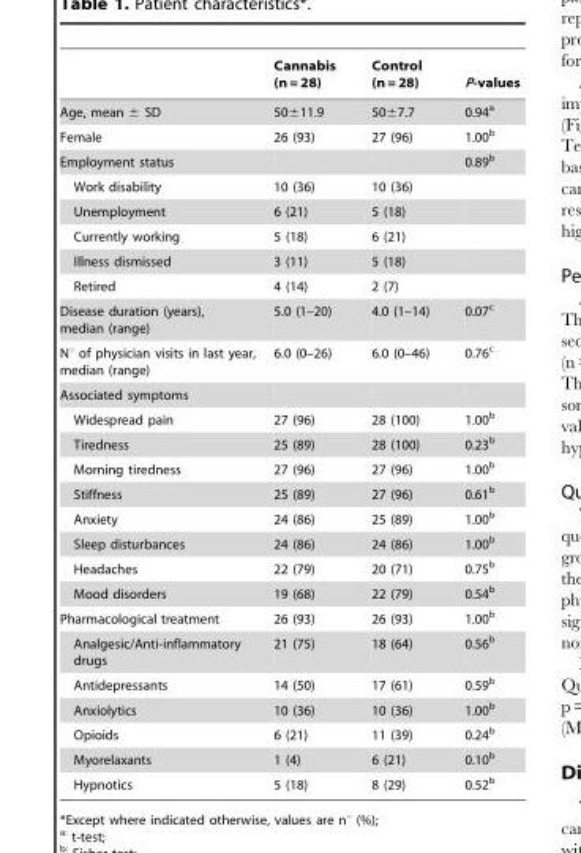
<table><thead><tr><td></td><td>Cannabis (n = 28)</td><td>Control (n = 28)</td><td>P-values</td></tr></thead><tbody><tr><td>Age, mean ± SD</td><td>50±11.9</td><td>50±7.7</td><td>0.94<sup>a</sup></td></tr><tr><td>Female</td><td>26 (93)</td><td>27 (96)</td><td>1.00<sup>b</sup></td></tr><tr><td>Employment status</td><td></td><td></td><td>0.89<sup>b</sup></td></tr><tr><td>Work disability</td><td>10 (36)</td><td>10 (36)</td><td></td></tr><tr><td>Unemployment</td><td>6 (21)</td><td>5 (18)</td><td></td></tr><tr><td>Currently working</td><td>5 (18)</td><td>6 (21)</td><td></td></tr><tr><td>Illness dismissed</td><td>3 (11)</td><td>5 (18)</td><td></td></tr><tr><td>Retired</td><td>4 (14)</td><td>2 (7)</td><td></td></tr><tr><td>Disease duration (years), median (range)</td><td>5.0 (1–20)</td><td>4.0 (1–14)</td><td>0.07<sup>c</sup></td></tr><tr><td>N° of physician visits in last year, median (range)</td><td>6.0 (0–26)</td><td>6.0 (0–46)</td><td>0.76<sup>c</sup></td></tr><tr><td colspan="4">Associated symptoms</td></tr><tr><td>Widespread pain</td><td>27 (96)</td><td>28 (100)</td><td>1.00<sup>b</sup></td></tr><tr><td>Tiredness</td><td>25 (89)</td><td>28 (100)</td><td>0.23<sup>b</sup></td></tr><tr><td>Morning tiredness</td><td>27 (96)</td><td>27 (96)</td><td>1.00<sup>b</sup></td></tr><tr><td>Stiffness</td><td>25 (89)</td><td>27 (96)</td><td>0.61<sup>b</sup></td></tr><tr><td>Anxiety</td><td>24 (86)</td><td>25 (89)</td><td>1.00<sup>b</sup></td></tr><tr><td>Sleep disturbances</td><td>24 (86)</td><td>24 (86)</td><td>1.00<sup>b</sup></td></tr><tr><td>Headaches</td><td>22 (79)</td><td>20 (71)</td><td>0.75<sup>b</sup></td></tr><tr><td>Mood disorders</td><td>19 (68)</td><td>22 (79)</td><td>0.54<sup>b</sup></td></tr><tr><td>Pharmacological treatment</td><td>26 (93)</td><td>26 (93)</td><td>1.00<sup>b</sup></td></tr><tr><td>Analgesic/Anti-inflammatory drugs</td><td>21 (75)</td><td>18 (64)</td><td>0.56<sup>b</sup></td></tr><tr><td>Antidepressants</td><td>14 (50)</td><td>17 (61)</td><td>0.59<sup>b</sup></td></tr><tr><td>Anxiolytics</td><td>10 (36)</td><td>10 (36)</td><td>1.00<sup>b</sup></td></tr><tr><td>Opioids</td><td>6 (21)</td><td>11 (39)</td><td>0.24<sup>b</sup></td></tr><tr><td>Myorelaxants</td><td>1 (4)</td><td>6 (21)</td><td>0.10<sup>b</sup></td></tr><tr><td>Hypnotics</td><td>5 (18)</td><td>8 (29)</td><td>0.52<sup>b</sup></td></tr></tbody></table>